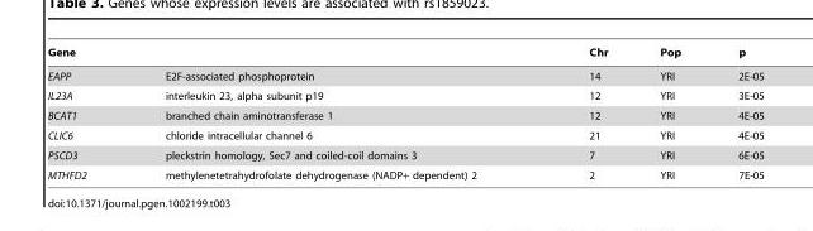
<table><thead><tr><td>Gene</td><td></td><td>Chr</td><td>Pop</td><td>p</td></tr></thead><tbody><tr><td>EAPP</td><td>E2F-associated phosphoprotein</td><td>14</td><td>YRI</td><td>2E-05</td></tr><tr><td>IL23A</td><td>interleukin 23, alpha subunit p19</td><td>12</td><td>YRI</td><td>3E-05</td></tr><tr><td>BCAT1</td><td>branched chain aminotransferase 1</td><td>12</td><td>YRI</td><td>4E-05</td></tr><tr><td>CLIC6</td><td>chloride intracellular channel 6</td><td>21</td><td>YRI</td><td>4E-05</td></tr><tr><td>PSCD3</td><td>pleckstrin homology, Sec7 and coiled-coil domains 3</td><td>7</td><td>YRI</td><td>6E-05</td></tr><tr><td>MTHFD2</td><td>methylenetetrahydrofolate dehydrogenase (NADP+ dependent) 2</td><td>2</td><td>YRI</td><td>7E-05</td></tr></tbody></table>